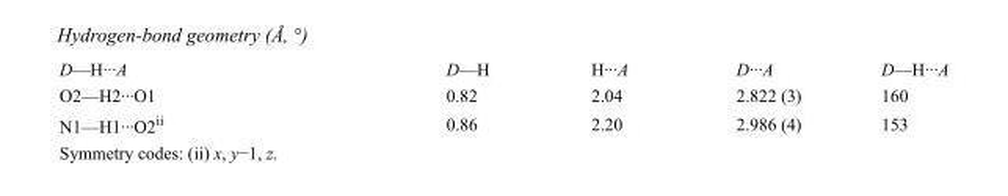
<table><tbody><tr><td>D—H···A</td><td>D—H</td><td>H···A</td><td>D···A</td><td>D—H···A</td></tr><tr><td>O2—H2···O1</td><td>0.82</td><td>2.04</td><td>2.822 (3)</td><td>160</td></tr><tr><td>N1—H1···O2<sup>ii</sup></td><td>0.86</td><td>2.20</td><td>2.986 (4)</td><td>153</td></tr></tbody></table>